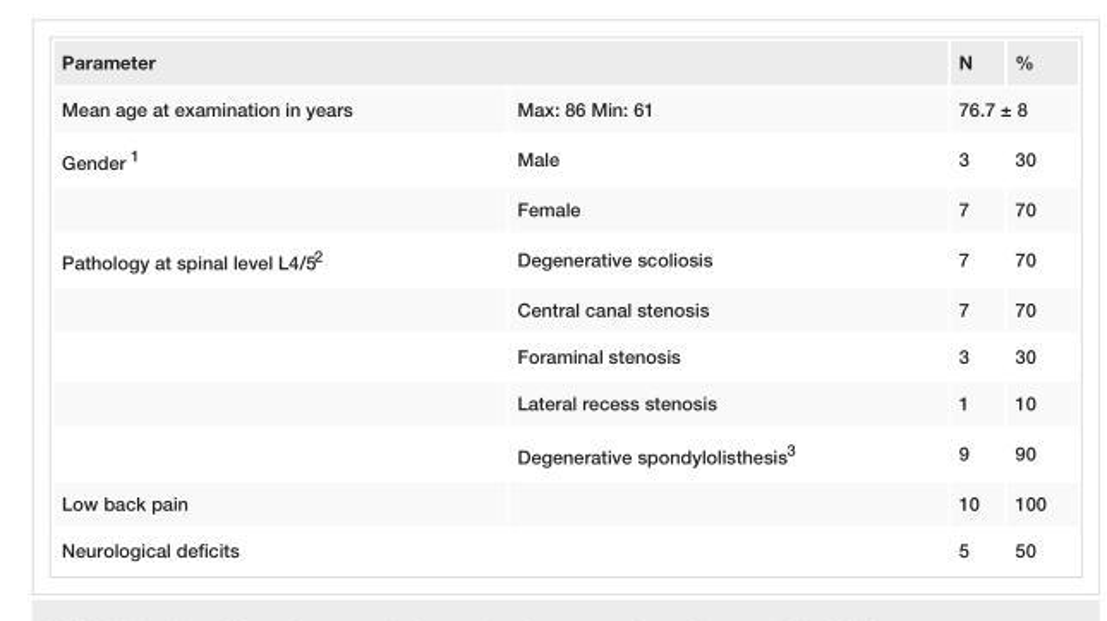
<table><tbody><tr><td colspan="2">Parameter</td><td>N</td><td>%</td></tr><tr><td>Mean age at examination in years</td><td>Max: 86 Min: 61</td><td colspan="2">76.7 ± 8</td></tr><tr><td rowspan="2">Gender <sup>1</sup></td><td>Male</td><td>3</td><td>30</td></tr><tr><td>Female</td><td>7</td><td>70</td></tr><tr><td rowspan="5">Pathology at spinal level L4/5<sup>2</sup></td><td>Degenerative scoliosis</td><td>7</td><td>70</td></tr><tr><td>Central canal stenosis</td><td>7</td><td>70</td></tr><tr><td>Foraminal stenosis</td><td>3</td><td>30</td></tr><tr><td>Lateral recess stenosis</td><td>1</td><td>10</td></tr><tr><td>Degenerative spondylolisthesis<sup>3</sup></td><td>9</td><td>90</td></tr><tr><td>Low back pain</td><td></td><td>10</td><td>100</td></tr><tr><td>Neurological deficits</td><td></td><td>5</td><td>50</td></tr></tbody></table>